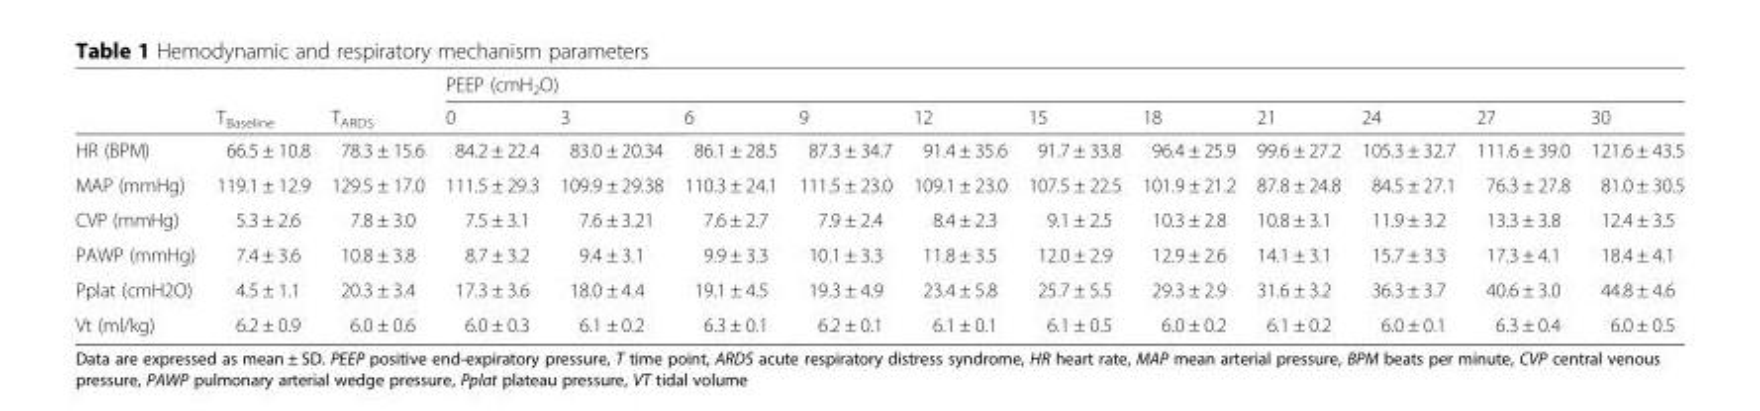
<table><thead><tr><td rowspan="2"></td><td rowspan="2">T<sub>Baseline</sub></td><td rowspan="2">T<sub>ARDS</sub></td><td colspan="11">PEEP (cmH<sub>2</sub>O)</td></tr><tr><td>0</td><td>3</td><td>6</td><td>9</td><td>12</td><td>15</td><td>18</td><td>21</td><td>24</td><td>27</td><td>30</td></tr></thead><tbody><tr><td>HR (BPM)</td><td>66.5 ± 10.8</td><td>78.3 ± 15.6</td><td>84.2 ± 22.4</td><td>83.0 ± 20.34</td><td>86.1 ± 28.5</td><td>87.3 ± 34.7</td><td>91.4 ± 35.6</td><td>91.7 ± 33.8</td><td>96.4 ± 25.9</td><td>99.6 ± 27.2</td><td>105.3 ± 32.7</td><td>111.6 ± 39.0</td><td>121.6 ± 43.5</td></tr><tr><td>MAP (mmHg)</td><td>119.1 ± 12.9</td><td>129.5 ± 17.0</td><td>111.5 ± 29.3</td><td>109.9 ± 29.38</td><td>110.3 ± 24.1</td><td>111.5 ± 23.0</td><td>109.1 ± 23.0</td><td>107.5 ± 22.5</td><td>101.9 ± 21.2</td><td>87.8 ± 24.8</td><td>84.5 ± 27.1</td><td>76.3 ± 27.8</td><td>81.0 ± 30.5</td></tr><tr><td>CVP (mmHg)</td><td>5.3 ± 2.6</td><td>7.8 ± 3.0</td><td>7.5 ± 3.1</td><td>7.6 ± 3.21</td><td>7.6 ± 2.7</td><td>7.9 ± 2.4</td><td>8.4 ± 2.3</td><td>9.1 ± 2.5</td><td>10.3 ± 2.8</td><td>10.8 ± 3.1</td><td>11.9 ± 3.2</td><td>13.3 ± 3.8</td><td>12.4 ± 3.5</td></tr><tr><td>PAWP (mmHg)</td><td>7.4 ± 3.6</td><td>10.8 ± 3.8</td><td>8.7 ± 3.2</td><td>9.4 ± 3.1</td><td>9.9 ± 3.3</td><td>10.1 ± 3.3</td><td>11.8 ± 3.5</td><td>12.0 ± 2.9</td><td>12.9 ± 2.6</td><td>14.1 ± 3.1</td><td>15.7 ± 3.3</td><td>17.3 ± 4.1</td><td>18.4 ± 4.1</td></tr><tr><td>Pplat (cmH2O)</td><td>4.5 ± 1.1</td><td>20.3 ± 3.4</td><td>17.3 ± 3.6</td><td>18.0 ± 4.4</td><td>19.1 ± 4.5</td><td>19.3 ± 4.9</td><td>23.4 ± 5.8</td><td>25.7 ± 5.5</td><td>29.3 ± 2.9</td><td>31.6 ± 3.2</td><td>36.3 ± 3.7</td><td>40.6 ± 3.0</td><td>44.8 ± 4.6</td></tr><tr><td>Vt (ml/kg)</td><td>6.2 ± 0.9</td><td>6.0 ± 0.6</td><td>6.0 ± 0.3</td><td>6.1 ± 0.2</td><td>6.3 ± 0.1</td><td>6.2 ± 0.1</td><td>6.1 ± 0.1</td><td>6.1 ± 0.5</td><td>6.0 ± 0.2</td><td>6.1 ± 0.2</td><td>6.0 ± 0.1</td><td>6.3 ± 0.4</td><td>6.0 ± 0.5</td></tr></tbody></table>